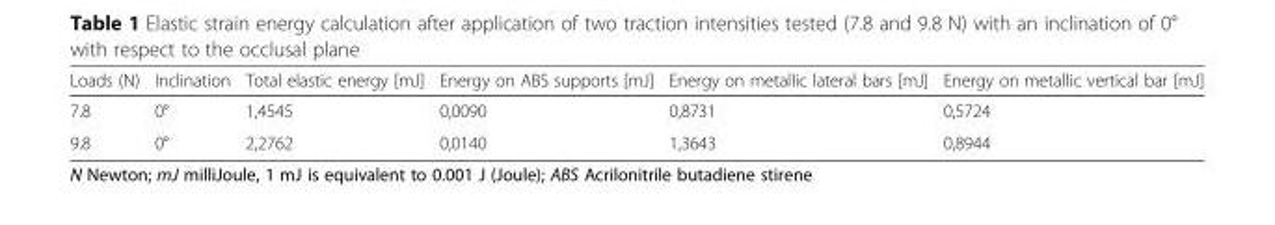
<table><thead><tr><td>Loads (N)</td><td>Inclination</td><td>Total elastic energy [mJ]</td><td>Energy on ABS supports [mJ]</td><td>Energy on metallic lateral bars [mJ]</td><td>Energy on metallic vertical bar [mJ]</td></tr></thead><tbody><tr><td>7.8</td><td>0°</td><td>1,4545</td><td>0,0090</td><td>0,8731</td><td>0,5724</td></tr><tr><td>9.8</td><td>0°</td><td>2,2762</td><td>0,0140</td><td>1,3643</td><td>0,8944</td></tr></tbody></table>